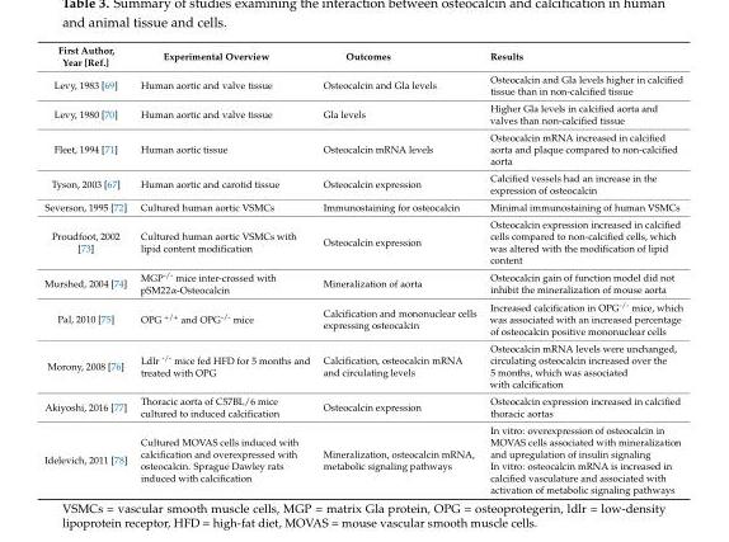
<table><thead><tr><td>First Author, Year [Ref.]</td><td>Experimental Overview</td><td>Outcomes</td><td>Results</td></tr></thead><tbody><tr><td>Levy, 1983 [69]</td><td>Human aortic and valve tissue</td><td>Osteocalcin and Gla levels</td><td>Osteocalcin and Gla levels higher in calcified tissue than in non-calcified tissue</td></tr><tr><td>Levy, 1980 [70]</td><td>Human aortic and valve tissue</td><td>Gla levels</td><td>Higher Gla levels in calcified aorta and valves than non-calcified tissue</td></tr><tr><td>Fleet, 1994 [71]</td><td>Human aortic tissue</td><td>Osteocalcin mRNA levels</td><td>Osteocalcin mRNA increased in calcified aorta and plaque compared to non-calcified aorta</td></tr><tr><td>Tyson, 2003 [67]</td><td>Human aortic and carotid tissue</td><td>Osteocalcin expression</td><td>Calcified vessels had an increase in the expression of osteocalcin</td></tr><tr><td>Severson, 1995 [72]</td><td>Cultured human aortic VSMCs</td><td>Immunostaining for osteocalcin</td><td>Minimal immunostaining of human VSMCs</td></tr><tr><td>Proudfoot, 2002 [73]</td><td>Cultured human aortic VSMCs with lipid content modification</td><td>Osteocalcin expression</td><td>Osteocalcin expression increased in calcified cells compared to non-calcified cells, which was altered with the modification of lipid content</td></tr><tr><td>Murshed, 2004 [74]</td><td>MGP<sup>-/-</sup> mice inter-crossed with pSM22α-Osteocalcin</td><td>Mineralization of aorta</td><td>Osteocalcin gain of function model did not inhibit the mineralization of mouse aorta</td></tr><tr><td>Pal, 2010 [75]</td><td>OPG <sup>+/+</sup> and OPG<sup>-/-</sup> mice</td><td>Calcification and mononuclear cells expressing osteocalcin</td><td>Increased calcification in OPG<sup>-/-</sup> mice, which was associated with an increased percentage of osteocalcin positive mononuclear cells</td></tr><tr><td>Morony, 2008 [76]</td><td>Ldlr <sup>-/-</sup> mice fed HFD for 5 months and treated with OPG</td><td>Calcification, osteocalcin mRNA and circulating levels</td><td>Osteocalcin mRNA levels were unchanged, circulating osteocalcin increased over the 5 months, which was associated with calcification</td></tr><tr><td>Akiyoshi, 2016 [77]</td><td>Thoracic aorta of C57BL/6 mice cultured to induced calcification</td><td>Osteocalcin expression</td><td>Osteocalcin expression increased in calcified thoracic aortas</td></tr><tr><td>Idelevich, 2011 [78]</td><td>Cultured MOVAS cells induced with calcification and overexpressed with osteocalcin. Sprague Dawley rats induced with calcification</td><td>Mineralization, osteocalcin mRNA, metabolic signaling pathways</td><td>In vitro: overexpression of osteocalcin in MOVAS cells associated with mineralization and upregulation of insulin signaling In vitro: osteocalcin mRNA is increased in calcified vasculature and associated with activation of metabolic signaling pathways</td></tr></tbody></table>